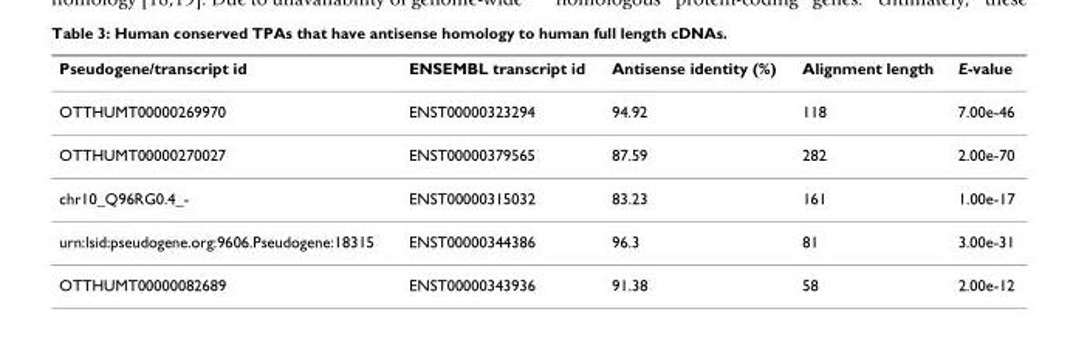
<table><thead><tr><td>Pseudogene/transcript id</td><td>ENSEMBL transcript id</td><td>Antisense identity (%)</td><td>Alignment length</td><td>E-value</td></tr></thead><tbody><tr><td>OTTHUMT00000269970</td><td>ENST00000323294</td><td>94.92</td><td>118</td><td>7.00e-46</td></tr><tr><td>OTTHUMT00000270027</td><td>ENST00000379565</td><td>87.59</td><td>282</td><td>2.00e-70</td></tr><tr><td>chr10_Q96RG0.4_-</td><td>ENST00000315032</td><td>83.23</td><td>161</td><td>1.00e-17</td></tr><tr><td>urn:lsid:pseudogene.org:9606.Pseudogene:18315</td><td>ENST00000344386</td><td>96.3</td><td>81</td><td>3.00e-31</td></tr><tr><td>OTTHUMT00000082689</td><td>ENST00000343936</td><td>91.38</td><td>58</td><td>2.00e-12</td></tr></tbody></table>